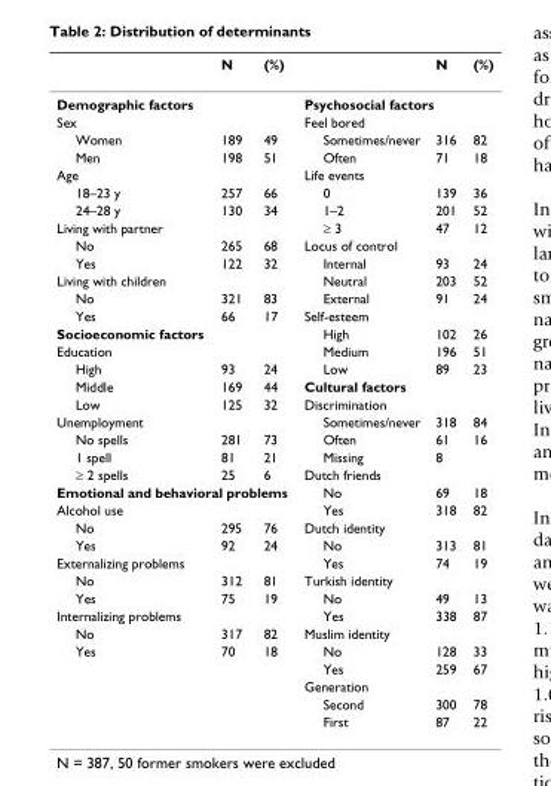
<table><thead><tr><td></td><td>N</td><td>(%)</td><td></td><td>N</td><td>(%)</td></tr></thead><tbody><tr><td colspan="3">Demographic factors</td><td colspan="3">Psychosocial factors</td></tr><tr><td>Sex</td><td></td><td></td><td>Feel bored</td><td></td><td></td></tr><tr><td>Women</td><td>189</td><td>49</td><td>Sometimes/never</td><td>316</td><td>82</td></tr><tr><td>Men</td><td>198</td><td>51</td><td>Often</td><td>71</td><td>18</td></tr><tr><td>Age</td><td></td><td></td><td>Life events</td><td></td><td></td></tr><tr><td>18–23 y</td><td>257</td><td>66</td><td>0</td><td>139</td><td>36</td></tr><tr><td>24–28 y</td><td>130</td><td>34</td><td>1–2</td><td>201</td><td>52</td></tr><tr><td>Living with partner</td><td></td><td></td><td>≥ 3</td><td>47</td><td>12</td></tr><tr><td>No</td><td>265</td><td>68</td><td>Locus of control</td><td></td><td></td></tr><tr><td>Yes</td><td>122</td><td>32</td><td>Internal</td><td>93</td><td>24</td></tr><tr><td>Living with children</td><td></td><td></td><td>Neutral</td><td>203</td><td>52</td></tr><tr><td>No</td><td>321</td><td>83</td><td>External</td><td>91</td><td>24</td></tr><tr><td>Yes</td><td>66</td><td>17</td><td>Self-esteem</td><td></td><td></td></tr><tr><td colspan="3">Socioeconomic factors</td><td>High</td><td>102</td><td>26</td></tr><tr><td>Education</td><td></td><td></td><td>Medium</td><td>196</td><td>51</td></tr><tr><td>High</td><td>93</td><td>24</td><td>Low</td><td>89</td><td>23</td></tr><tr><td>Middle</td><td>169</td><td>44</td><td colspan="3">Cultural factors</td></tr><tr><td>Low</td><td>125</td><td>32</td><td>Discrimination</td><td></td><td></td></tr><tr><td>Unemployment</td><td></td><td></td><td>Sometimes/never</td><td>318</td><td>84</td></tr><tr><td>No spells</td><td>281</td><td>73</td><td>Often</td><td>61</td><td>16</td></tr><tr><td>1 spell</td><td>81</td><td>21</td><td>Missing</td><td>8</td><td></td></tr><tr><td>≥ 2 spells</td><td>25</td><td>6</td><td>Dutch friends</td><td></td><td></td></tr><tr><td colspan="3">Emotional and behavioral problems</td><td>No</td><td>69</td><td>18</td></tr><tr><td>Alcohol use</td><td></td><td></td><td>Yes</td><td>318</td><td>82</td></tr><tr><td>No</td><td>295</td><td>76</td><td>Dutch identity</td><td></td><td></td></tr><tr><td>Yes</td><td>92</td><td>24</td><td>No</td><td>313</td><td>81</td></tr><tr><td>Externalizing problems</td><td></td><td></td><td>Yes</td><td>74</td><td>19</td></tr><tr><td>No</td><td>312</td><td>81</td><td>Turkish identity</td><td></td><td></td></tr><tr><td>Yes</td><td>75</td><td>19</td><td>No</td><td>49</td><td>13</td></tr><tr><td>Internalizing problems</td><td></td><td></td><td>Yes</td><td>338</td><td>87</td></tr><tr><td>No</td><td>317</td><td>82</td><td>Muslim identity</td><td></td><td></td></tr><tr><td rowspan="5">Yes</td><td>70</td><td>18</td><td>No</td><td>128</td><td>33</td></tr><tr><td></td><td></td><td>Yes</td><td>259</td><td>67</td></tr><tr><td></td><td></td><td>Generation</td><td></td><td></td></tr><tr><td></td><td></td><td>Second</td><td>300</td><td>78</td></tr><tr><td></td><td></td><td>First</td><td>87</td><td>22</td></tr></tbody></table>